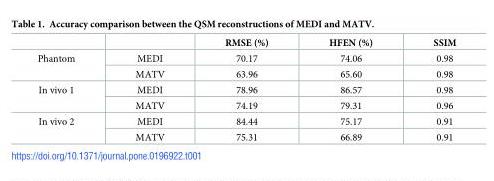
<table><thead><tr><td></td><td></td><td>RMSE (%)</td><td>HFEN (%)</td><td>SSIM</td></tr></thead><tbody><tr><td rowspan="2">Phantom</td><td>MEDI</td><td>70.17</td><td>74.06</td><td>0.98</td></tr><tr><td>MATV</td><td>63.96</td><td>65.60</td><td>0.98</td></tr><tr><td rowspan="2">In vivo 1</td><td>MEDI</td><td>78.96</td><td>86.57</td><td>0.98</td></tr><tr><td>MATV</td><td>74.19</td><td>79.31</td><td>0.96</td></tr><tr><td rowspan="2">In vivo 2</td><td>MEDI</td><td>84.44</td><td>75.17</td><td>0.91</td></tr><tr><td>MATV</td><td>75.31</td><td>66.89</td><td>0.91</td></tr></tbody></table>